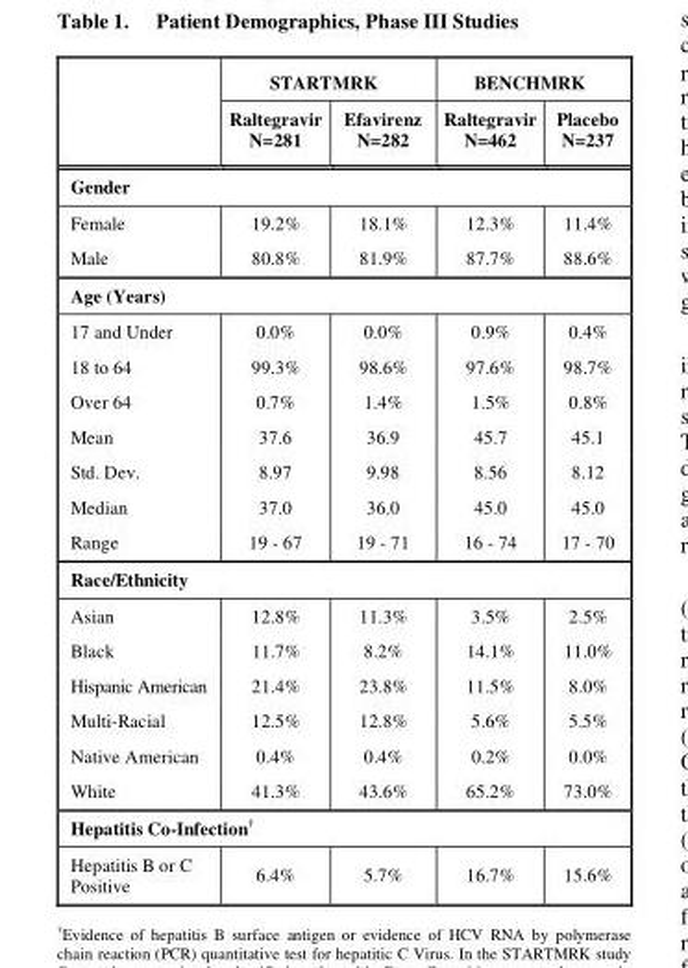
<table><thead><tr><td rowspan="2"></td><td colspan="2">STARTMRK</td><td colspan="2">BENCHMRK</td></tr><tr><td>Raltegravir N=281</td><td>Efavirenz N=282</td><td>Raltegravir N=462</td><td>Placebo N=237</td></tr></thead><tbody><tr><td colspan="5">Gender</td></tr><tr><td>Female</td><td>19.2%</td><td>18.1%</td><td>12.3%</td><td>11.4%</td></tr><tr><td>Male</td><td>80.8%</td><td>81.9%</td><td>87.7%</td><td>88.6%</td></tr><tr><td colspan="5">Age (Years)</td></tr><tr><td>17 and Under</td><td>0.0%</td><td>0.0%</td><td>0.9%</td><td>0.4%</td></tr><tr><td>18 to 64</td><td>99.3%</td><td>98.6%</td><td>97.6%</td><td>98.7%</td></tr><tr><td>Over 64</td><td>0.7%</td><td>1.4%</td><td>1.5%</td><td>0.8%</td></tr><tr><td>Mean</td><td>37.6</td><td>36.9</td><td>45.7</td><td>45.1</td></tr><tr><td>Std. Dev.</td><td>8.97</td><td>9.98</td><td>8.56</td><td>8.12</td></tr><tr><td>Median</td><td>37.0</td><td>36.0</td><td>45.0</td><td>45.0</td></tr><tr><td>Range</td><td>19 - 67</td><td>19 - 71</td><td>16 - 74</td><td>17 - 70</td></tr><tr><td colspan="5">Race/Ethnicity</td></tr><tr><td>Asian</td><td>12.8%</td><td>11.3%</td><td>3.5%</td><td>2.5%</td></tr><tr><td>Black</td><td>11.7%</td><td>8.2%</td><td>14.1%</td><td>11.0%</td></tr><tr><td>Hispanic American</td><td>21.4%</td><td>23.8%</td><td>11.5%</td><td>8.0%</td></tr><tr><td>Multi-Racial</td><td>12.5%</td><td>12.8%</td><td>5.6%</td><td>5.5%</td></tr><tr><td>Native American</td><td>0.4%</td><td>0.4%</td><td>0.2%</td><td>0.0%</td></tr><tr><td>White</td><td>41.3%</td><td>43.6%</td><td>65.2%</td><td>73.0%</td></tr><tr><td colspan="5">Hepatitis Co-Infection†</td></tr><tr><td>Hepatitis B or C Positive</td><td>6.4%</td><td>5.7%</td><td>16.7%</td><td>15.6%</td></tr></tbody></table>